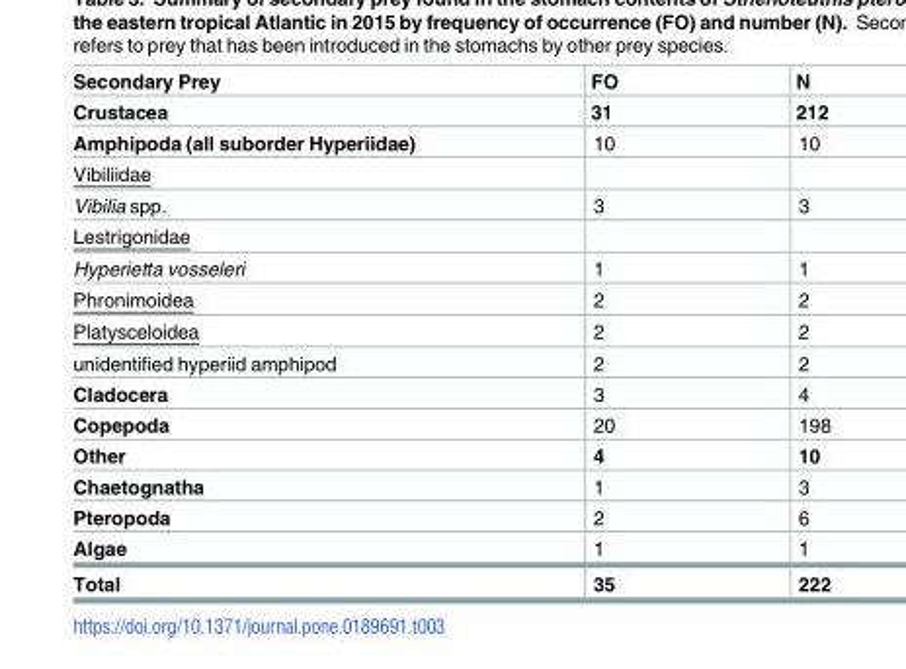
<table><thead><tr><td rowspan="2">Secondary Prey Crustacea</td><td rowspan="2">FO 31</td><td rowspan="2">N 212</td></tr><tr></tr></thead><tbody><tr><td>Amphipoda (all suborder Hyperiidae)</td><td>10</td><td>10</td></tr><tr><td colspan="3">Vibiliidae</td></tr><tr><td>Vibilia spp.</td><td>3</td><td>3</td></tr><tr><td colspan="3">Lestrigonidae</td></tr><tr><td>Hyperietta vosseleri</td><td>1</td><td>1</td></tr><tr><td>Phronimoidea</td><td>2</td><td>2</td></tr><tr><td>Platysceloidea</td><td>2</td><td>2</td></tr><tr><td>unidentified hyperiid amphipod</td><td>2</td><td>2</td></tr><tr><td>Cladocera</td><td>3</td><td>4</td></tr><tr><td>Copepoda</td><td>20</td><td>198</td></tr><tr><td>Other</td><td>4</td><td>10</td></tr><tr><td>Chaetognatha</td><td>1</td><td>3</td></tr><tr><td>Pteropoda</td><td>2</td><td>6</td></tr><tr><td>Algae</td><td>1</td><td>1</td></tr><tr><td>Total</td><td>35</td><td>222</td></tr></tbody></table>